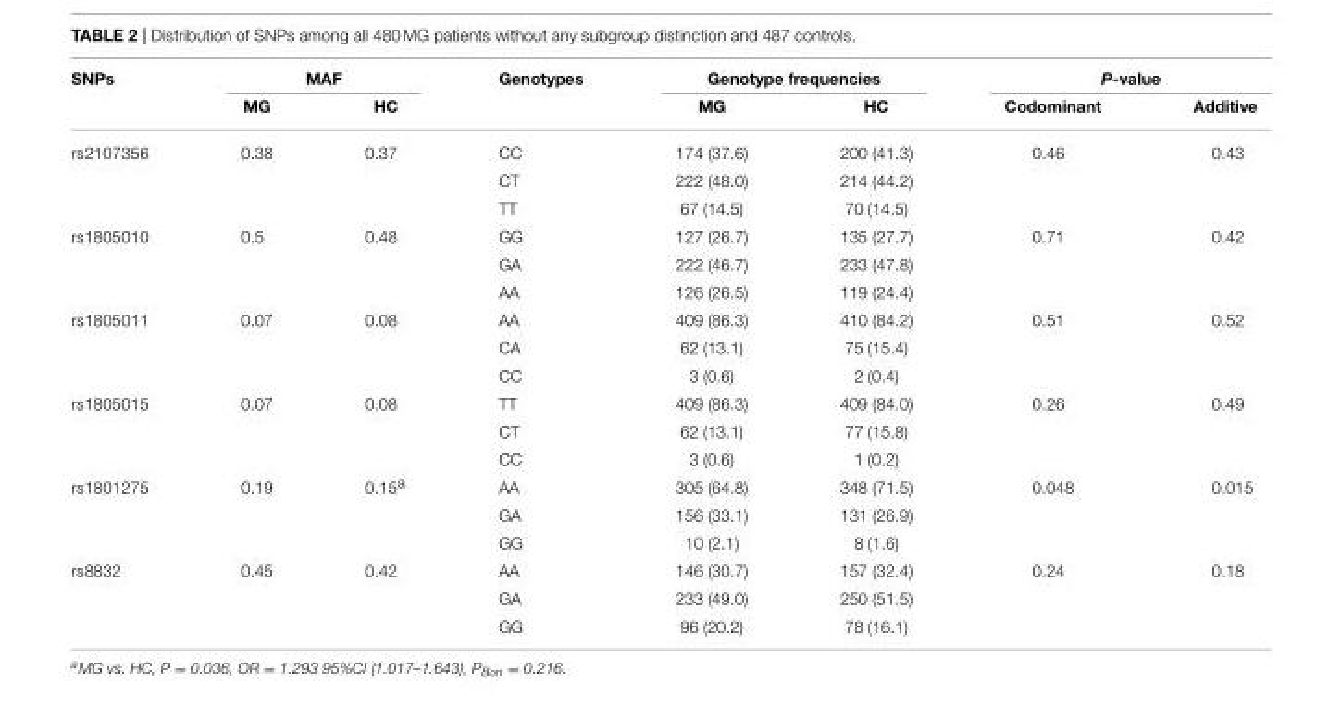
<table><thead><tr><td rowspan="2">SNPs</td><td colspan="2">MAF</td><td rowspan="2">Genotypes</td><td colspan="2">Genotype frequencies</td><td colspan="2">P-value</td></tr><tr><td>MG</td><td>HC</td><td>MG</td><td>HC</td><td>Codominant</td><td>Additive</td></tr></thead><tbody><tr><td rowspan="3">rs2107356</td><td>0.38</td><td>0.37</td><td>CC</td><td>174 (37.6)</td><td>200 (41.3)</td><td>0.46</td><td>0.43</td></tr><tr><td></td><td></td><td>CT</td><td>222 (48.0)</td><td>214 (44.2)</td><td></td><td></td></tr><tr><td></td><td></td><td>TT</td><td>67 (14.5)</td><td>70 (14.5)</td><td></td><td></td></tr><tr><td rowspan="3">rs1805010</td><td>0.5</td><td>0.48</td><td>GG</td><td>127 (26.7)</td><td>135 (27.7)</td><td>0.71</td><td>0.42</td></tr><tr><td></td><td></td><td>GA</td><td>222 (46.7)</td><td>233 (47.8)</td><td></td><td></td></tr><tr><td></td><td></td><td>AA</td><td>126 (26.5)</td><td>119 (24.4)</td><td></td><td></td></tr><tr><td rowspan="3">rs1805011</td><td>0.07</td><td>0.08</td><td>AA</td><td>409 (86.3)</td><td>410 (84.2)</td><td>0.51</td><td>0.52</td></tr><tr><td></td><td></td><td>CA</td><td>62 (13.1)</td><td>75 (15.4)</td><td></td><td></td></tr><tr><td></td><td></td><td>CC</td><td>3 (0.6)</td><td>2 (0.4)</td><td></td><td></td></tr><tr><td rowspan="3">rs1805015</td><td>0.07</td><td>0.08</td><td>TT</td><td>409 (86.3)</td><td>409 (84.0)</td><td>0.26</td><td>0.49</td></tr><tr><td></td><td></td><td>CT</td><td>62 (13.1)</td><td>77 (15.8)</td><td></td><td></td></tr><tr><td></td><td></td><td>CC</td><td>3 (0.6)</td><td>1 (0.2)</td><td></td><td></td></tr><tr><td rowspan="3">rs1801275</td><td>0.19</td><td>0.15<sup>a</sup></td><td>AA</td><td>305 (64.8)</td><td>348 (71.5)</td><td>0.048</td><td>0.015</td></tr><tr><td></td><td></td><td>GA</td><td>156 (33.1)</td><td>131 (26.9)</td><td></td><td></td></tr><tr><td></td><td></td><td>GG</td><td>10 (2.1)</td><td>8 (1.6)</td><td></td><td></td></tr><tr><td rowspan="3">rs8832</td><td>0.45</td><td>0.42</td><td>AA</td><td>146 (30.7)</td><td>157 (32.4)</td><td>0.24</td><td>0.18</td></tr><tr><td></td><td></td><td>GA</td><td>233 (49.0)</td><td>250 (51.5)</td><td></td><td></td></tr><tr><td></td><td></td><td>GG</td><td>96 (20.2)</td><td>78 (16.1)</td><td></td><td></td></tr></tbody></table>